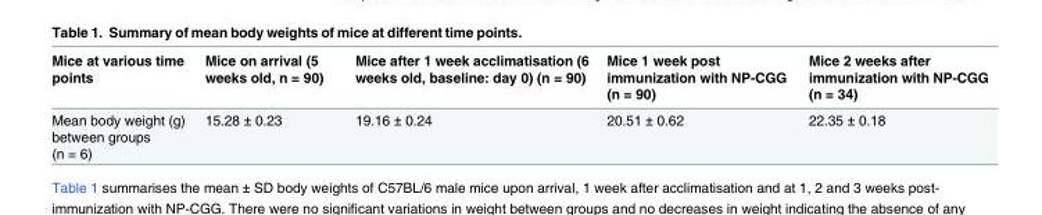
<table><thead><tr><td>Mice at various time points</td><td>Mice on arrival (5 weeks old, n = 90)</td><td>Mice after 1 week acclimatisation (6 weeks old, baseline: day 0) (n = 90)</td><td>Mice 1 week post immunization with NP-CGG (n = 90)</td><td>Mice 2 weeks after immunization with NP-CGG (n = 34)</td></tr></thead><tbody><tr><td>Mean body weight (g) between groups (n = 6)</td><td>15.28 ± 0.23</td><td>19.16 ± 0.24</td><td>20.51 ± 0.62</td><td>22.35 ± 0.18</td></tr></tbody></table>